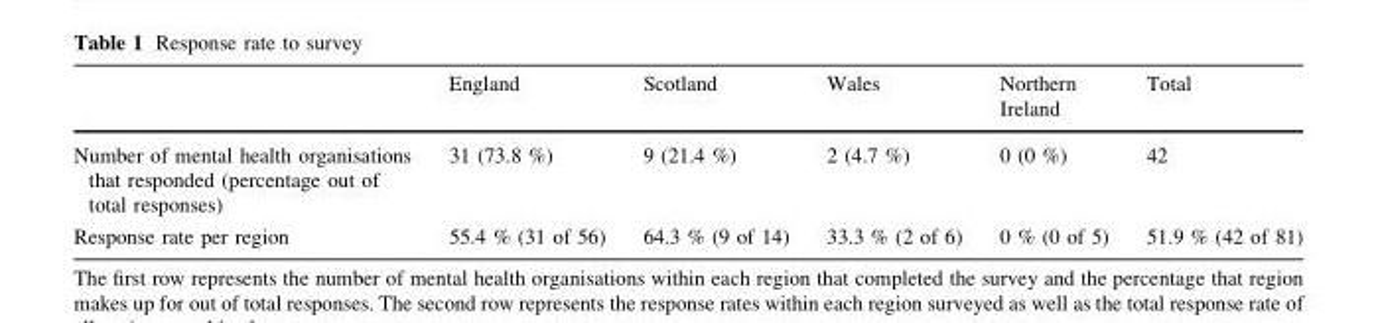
<table><thead><tr><td></td><td>England</td><td>Scotland</td><td>Wales</td><td>Northern Ireland</td><td>Total</td></tr></thead><tbody><tr><td>Number of mental health organisations that responded (percentage out of total responses)</td><td>31 (73.8 %)</td><td>9 (21.4 %)</td><td>2 (4.7 %)</td><td>0 (0 %)</td><td>42</td></tr><tr><td>Response rate per region</td><td>55.4 % (31 of 56)</td><td>64.3 % (9 of 14)</td><td>33.3 % (2 of 6)</td><td>0 % (0 of 5)</td><td>51.9 % (42 of 81)</td></tr></tbody></table>